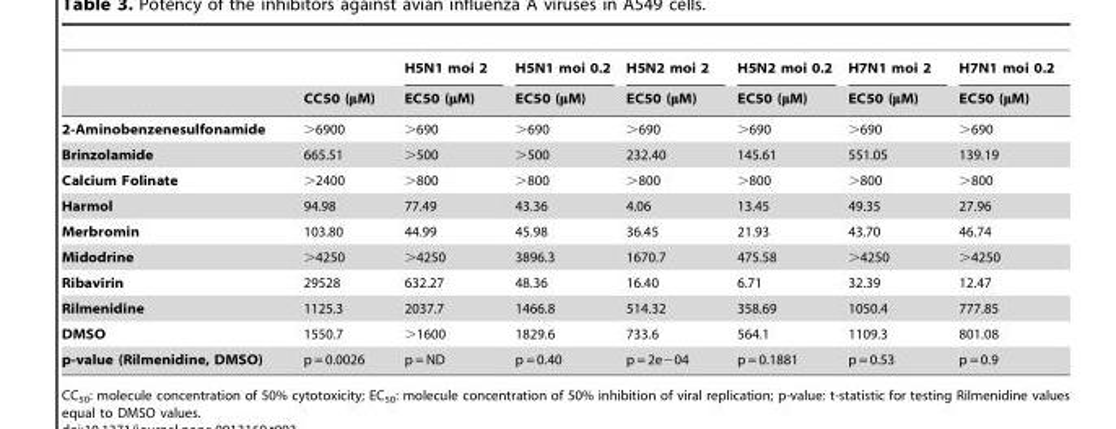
<table><thead><tr><td rowspan="2"></td><td rowspan="2">CC50 (μM)</td><td rowspan="2">H5N1 moi 2 EC50 (μM)</td><td rowspan="2">H5N1 moi 0.2 EC50 (μM)</td><td rowspan="2">H5N2 moi 2 EC50 (μM)</td><td rowspan="2">H5N2 moi 0.2 EC50 (μM)</td><td rowspan="2">H7N1 moi 2 EC50 (μM)</td><td rowspan="2">H7N1 moi 0.2 EC50 (μM)</td></tr><tr></tr></thead><tbody><tr><td>2-Aminobenzenesulfonamide</td><td>&gt;6900</td><td>&gt;690</td><td>&gt;690</td><td>&gt;690</td><td>&gt;690</td><td>&gt;690</td><td>&gt;690</td></tr><tr><td>Brinzolamide</td><td>665.51</td><td>&gt;500</td><td>&gt;500</td><td>232.40</td><td>145.61</td><td>551.05</td><td>139.19</td></tr><tr><td>Calcium Folinate</td><td>&gt;2400</td><td>&gt;800</td><td>&gt;800</td><td>&gt;800</td><td>&gt;800</td><td>&gt;800</td><td>&gt;800</td></tr><tr><td>Harmol</td><td>94.98</td><td>77.49</td><td>43.36</td><td>4.06</td><td>13.45</td><td>49.35</td><td>27.96</td></tr><tr><td>Merbromin</td><td>103.80</td><td>44.99</td><td>45.98</td><td>36.45</td><td>21.93</td><td>43.70</td><td>46.74</td></tr><tr><td>Midodrine</td><td>&gt;4250</td><td>&gt;4250</td><td>3896.3</td><td>1670.7</td><td>475.58</td><td>&gt;4250</td><td>&gt;4250</td></tr><tr><td>Ribavirin</td><td>29528</td><td>632.27</td><td>48.36</td><td>16.40</td><td>6.71</td><td>32.39</td><td>12.47</td></tr><tr><td>Rilmenidine</td><td>1125.3</td><td>2037.7</td><td>1466.8</td><td>514.32</td><td>358.69</td><td>1050.4</td><td>777.85</td></tr><tr><td>DMSO</td><td>1550.7</td><td>&gt;1600</td><td>1829.6</td><td>733.6</td><td>564.1</td><td>1109.3</td><td>801.08</td></tr><tr><td>p-value (Rilmenidine, DMSO)</td><td>p = 0.0026</td><td>p = ND</td><td>p = 0.40</td><td>p = 2e−04</td><td>p = 0.1881</td><td>p = 0.53</td><td>p = 0.9</td></tr></tbody></table>